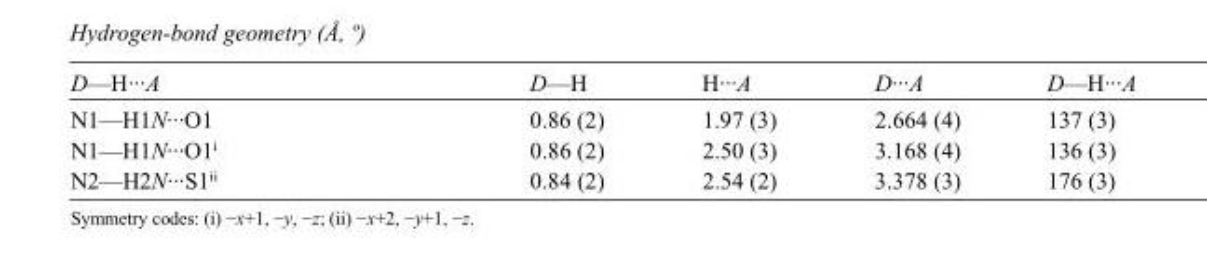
<table><tbody><tr><td>D—H···A</td><td>D—H</td><td>H···A</td><td>D···A</td><td>D—H···A</td></tr><tr><td>N1—H1N···O1</td><td>0.86 (2)</td><td>1.97 (3)</td><td>2.664 (4)</td><td>137 (3)</td></tr><tr><td>N1—H1N···O1<sup>i</sup></td><td>0.86 (2)</td><td>2.50 (3)</td><td>3.168 (4)</td><td>136 (3)</td></tr><tr><td>N2—H2N···S1<sup>ii</sup></td><td>0.84 (2)</td><td>2.54 (2)</td><td>3.378 (3)</td><td>176 (3)</td></tr></tbody></table>